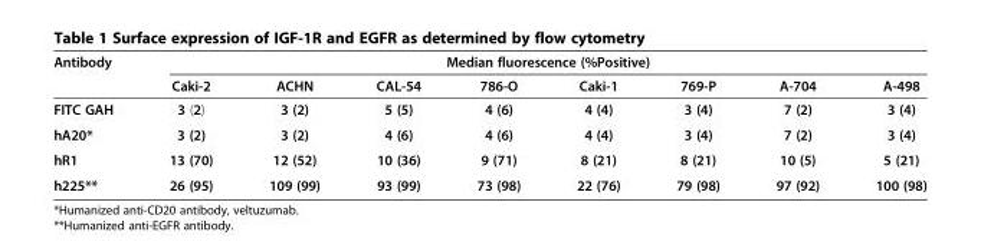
<table><thead><tr><td rowspan="2">Antibody</td><td colspan="8">Median fluorescence (%Positive)</td></tr><tr><td>Caki-2</td><td>ACHN</td><td>CAL-54</td><td>786-O</td><td>Caki-1</td><td>769-P</td><td>A-704</td><td>A-498</td></tr></thead><tbody><tr><td>FITC GAH</td><td>3 (2)</td><td>3 (2)</td><td>5 (5)</td><td>4 (6)</td><td>4 (4)</td><td>3 (4)</td><td>7 (2)</td><td>3 (4)</td></tr><tr><td>hA20*</td><td>3 (2)</td><td>3 (2)</td><td>4 (6)</td><td>4 (6)</td><td>4 (4)</td><td>3 (4)</td><td>7 (2)</td><td>3 (4)</td></tr><tr><td>hR1</td><td>13 (70)</td><td>12 (52)</td><td>10 (36)</td><td>9 (71)</td><td>8 (21)</td><td>8 (21)</td><td>10 (5)</td><td>5 (21)</td></tr><tr><td>h225**</td><td>26 (95)</td><td>109 (99)</td><td>93 (99)</td><td>73 (98)</td><td>22 (76)</td><td>79 (98)</td><td>97 (92)</td><td>100 (98)</td></tr></tbody></table>